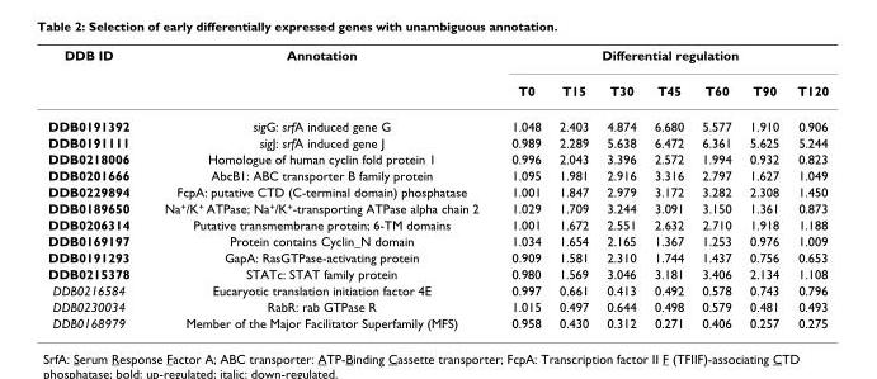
<table><thead><tr><td rowspan="2">DDB ID</td><td rowspan="2">Annotation</td><td colspan="7">Differential regulation</td></tr><tr><td>T0</td><td>T15</td><td>T30</td><td>T45</td><td>T60</td><td>T90</td><td>T120</td></tr></thead><tbody><tr><td>DDB0191392</td><td>sigG: srfA induced gene G</td><td>1.048</td><td>2.403</td><td>4.874</td><td>6.680</td><td>5.577</td><td>1.910</td><td>0.906</td></tr><tr><td>DDB0191111</td><td>sigJ: srfA induced gene J</td><td>0.989</td><td>2.289</td><td>5.638</td><td>6.472</td><td>6.361</td><td>5.625</td><td>5.244</td></tr><tr><td>DDB0218006</td><td>Homologue of human cyclin fold protein 1</td><td>0.996</td><td>2.043</td><td>3.396</td><td>2.572</td><td>1.994</td><td>0.932</td><td>0.823</td></tr><tr><td>DDB0201666</td><td>AbcB1: ABC transporter B family protein</td><td>1.095</td><td>1.981</td><td>2.916</td><td>3.316</td><td>2.797</td><td>1.627</td><td>1.049</td></tr><tr><td>DDB0229894</td><td>FcpA: putative CTD (C-terminal domain) phosphatase</td><td>1.001</td><td>1.847</td><td>2.979</td><td>3.172</td><td>3.282</td><td>2.308</td><td>1.450</td></tr><tr><td>DDB0189650</td><td>Na+/K+ ATPase; Na+/K+-transporting ATPase alpha chain 2</td><td>1.029</td><td>1.709</td><td>3.244</td><td>3.091</td><td>3.150</td><td>1.361</td><td>0.873</td></tr><tr><td>DDB0206314</td><td>Putative transmembrane protein; 6-TM domains</td><td>1.001</td><td>1.672</td><td>2.551</td><td>2.632</td><td>2.710</td><td>1.918</td><td>1.188</td></tr><tr><td>DDB0169197</td><td>Protein contains Cyclin_N domain</td><td>1.034</td><td>1.654</td><td>2.165</td><td>1.367</td><td>1.253</td><td>0.976</td><td>1.009</td></tr><tr><td>DDB0191293</td><td>GapA: RasGTPase-activating protein</td><td>0.909</td><td>1.581</td><td>2.310</td><td>1.744</td><td>1.437</td><td>0.756</td><td>0.653</td></tr><tr><td>DDB0215378</td><td>STATc: STAT family protein</td><td>0.980</td><td>1.569</td><td>3.046</td><td>3.181</td><td>3.406</td><td>2.134</td><td>1.108</td></tr><tr><td>DDB0216584</td><td>Eucaryotic translation initiation factor 4E</td><td>0.997</td><td>0.661</td><td>0.413</td><td>0.492</td><td>0.578</td><td>0.743</td><td>0.796</td></tr><tr><td>DDB0230034</td><td>RabR: rab GTPase R</td><td>1.015</td><td>0.497</td><td>0.644</td><td>0.498</td><td>0.579</td><td>0.481</td><td>0.493</td></tr><tr><td>DDB0168979</td><td>Member of the Major Facilitator Superfamily (MFS)</td><td>0.958</td><td>0.430</td><td>0.312</td><td>0.271</td><td>0.406</td><td>0.257</td><td>0.275</td></tr></tbody></table>